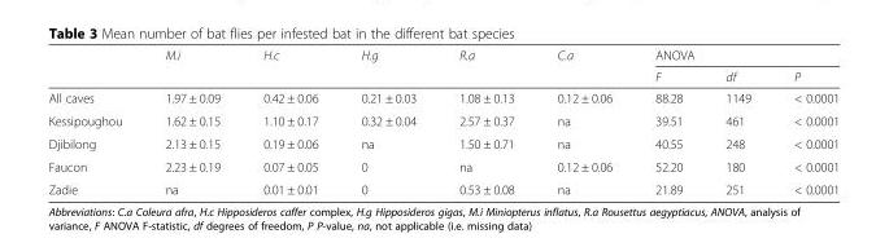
<table><thead><tr><td rowspan="2"></td><td rowspan="2">M.i</td><td rowspan="2">H.c</td><td rowspan="2">H.g</td><td rowspan="2">R.a</td><td rowspan="2">C.a</td><td colspan="3">ANOVA</td></tr><tr><td>F</td><td>df</td><td>P</td></tr></thead><tbody><tr><td>All caves</td><td>1.97 ± 0.09</td><td>0.42 ± 0.06</td><td>0.21 ± 0.03</td><td>1.08 ± 0.13</td><td>0.12 ± 0.06</td><td>88.28</td><td>1149</td><td>&lt; 0.0001</td></tr><tr><td>Kessipoughou</td><td>1.62 ± 0.15</td><td>1.10 ± 0.17</td><td>0.32 ± 0.04</td><td>2.57 ± 0.37</td><td>na</td><td>39.51</td><td>461</td><td>&lt; 0.0001</td></tr><tr><td>Djibilong</td><td>2.13 ± 0.15</td><td>0.19 ± 0.06</td><td>na</td><td>1.50 ± 0.71</td><td>na</td><td>40.55</td><td>248</td><td>&lt; 0.0001</td></tr><tr><td>Faucon</td><td>2.23 ± 0.19</td><td>0.07 ± 0.05</td><td>0</td><td>na</td><td>0.12 ± 0.06</td><td>52.20</td><td>180</td><td>&lt; 0.0001</td></tr><tr><td>Zadie</td><td>na</td><td>0.01 ± 0.01</td><td>0</td><td>0.53 ± 0.08</td><td>na</td><td>21.89</td><td>251</td><td>&lt; 0.0001</td></tr></tbody></table>